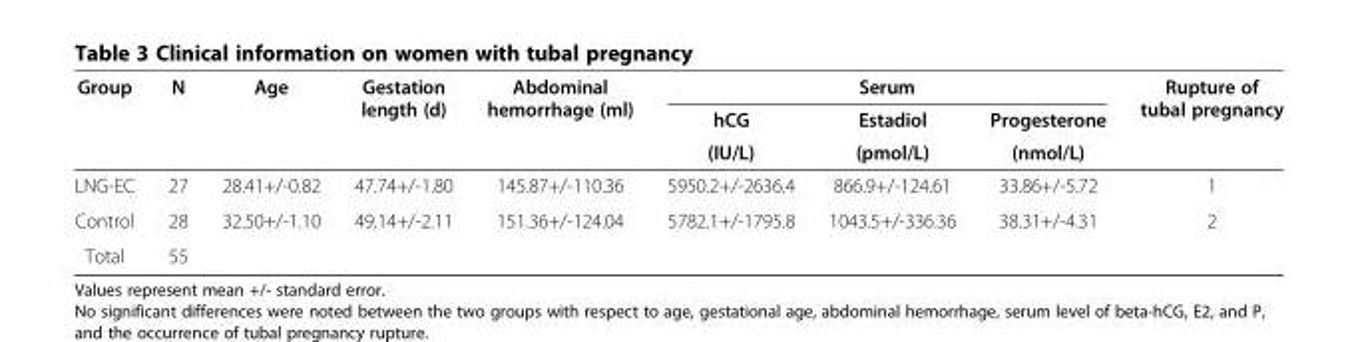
<table><thead><tr><td rowspan="3">Group</td><td rowspan="3">N</td><td rowspan="3">Age</td><td rowspan="3">Gestation length (d)</td><td rowspan="3">Abdominal hemorrhage (ml)</td><td colspan="3">Serum</td><td rowspan="3">Rupture of tubal pregnancy</td></tr><tr><td rowspan="2">hCG (IU/L)</td><td rowspan="2">Estadiol (pmol/L)</td><td rowspan="2">Progesterone (nmol/L)</td></tr><tr></tr></thead><tbody><tr><td>LNG-EC</td><td>27</td><td>28.41+/-0.82</td><td>47.74+/-1.80</td><td>145.87+/-110.36</td><td>5950.2+/-2636.4</td><td>866.9+/-124.61</td><td>33.86+/-5.72</td><td>1</td></tr><tr><td>Control</td><td>28</td><td>32.50+/-1.10</td><td>49.14+/-2.11</td><td>151.36+/-124.04</td><td>5782.1+/-1795.8</td><td>1043.5+/-336.36</td><td>38.31+/-4.31</td><td>2</td></tr><tr><td>Total</td><td>55</td><td></td><td></td><td></td><td></td><td></td><td></td><td></td></tr></tbody></table>